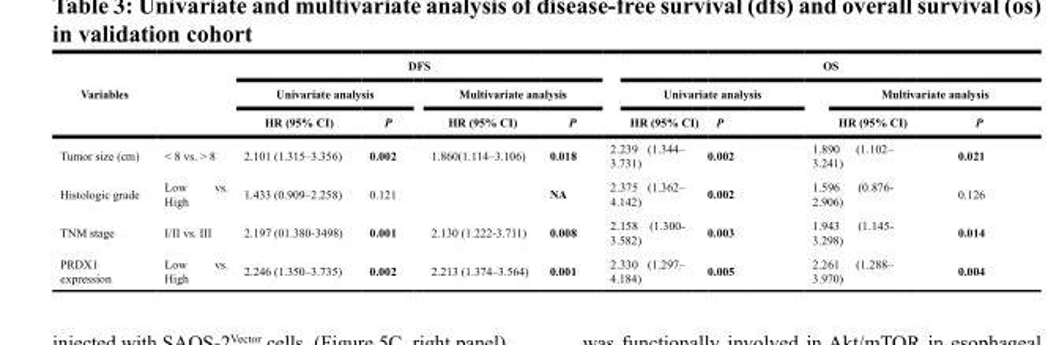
<table><thead><tr><td rowspan="3">Variables</td><td rowspan="3"></td><td colspan="4">DFS</td><td colspan="4">OS</td></tr><tr><td colspan="2">Univariate analysis</td><td colspan="2">Multivariate analysis</td><td colspan="2">Univariate analysis</td><td colspan="2">Multivariate analysis</td></tr><tr><td>HR (95% CI)</td><td>P</td><td>HR (95% CI)</td><td>P</td><td>HR (95% CI)</td><td>P</td><td>HR (95% CI)</td><td>P</td></tr></thead><tbody><tr><td>Tumor size (cm)</td><td>&lt; 8 vs. &gt; 8</td><td>2.101 (1.315–3.356)</td><td>0.002</td><td>1.860(1.114–3.106)</td><td>0.018</td><td>2.239 (1.344– 3.731)</td><td>0.002</td><td>1.890 (1.102– 3.241)</td><td>0.021</td></tr><tr><td>Histologic grade</td><td>Low vs. High</td><td>1.433 (0.909–2.258)</td><td>0.121</td><td></td><td>NA</td><td>2.375 (1.362– 4.142)</td><td>0.002</td><td>1.596 (0.876- 2.906)</td><td>0.126</td></tr><tr><td>TNM stage</td><td>I/II vs. III</td><td>2.197 (01.380-3498)</td><td>0.001</td><td>2.130 (1.222-3.711)</td><td>0.008</td><td>2.158 (1.300- 3.582)</td><td>0.003</td><td>1.943 (1.145- 3.298)</td><td>0.014</td></tr><tr><td>PRDX1 expression</td><td>Low vs. High</td><td>2.246 (1.350–3.735)</td><td>0.002</td><td>2.213 (1.374–3.564)</td><td>0.001</td><td>2.330 (1.297– 4.184)</td><td>0.005</td><td>2.261 (1.288– 3.970)</td><td>0.004</td></tr></tbody></table>